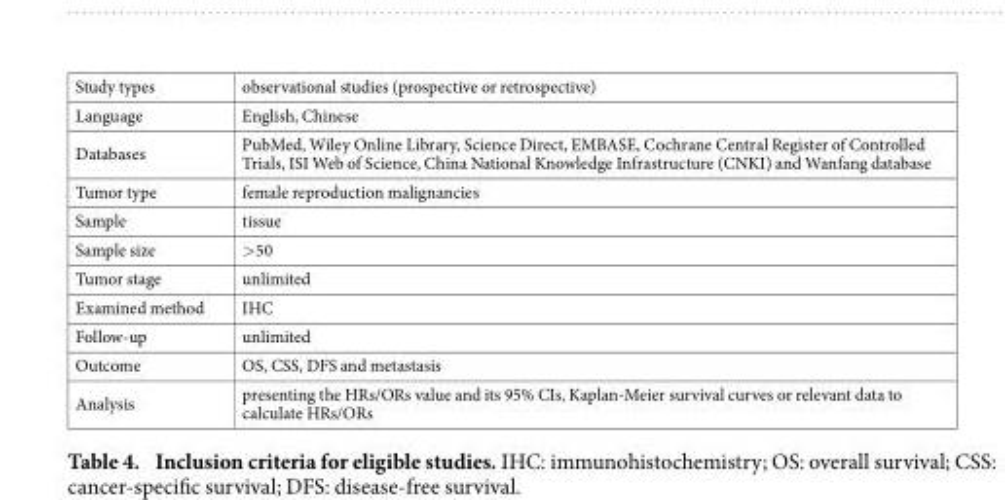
<table><tbody><tr><td>Study types</td><td>observational studies (prospective or retrospective)</td></tr><tr><td>Language</td><td>English, Chinese</td></tr><tr><td>Databases</td><td>PubMed, Wiley Online Library, Science Direct, EMBASE, Cochrane Central Register of Controlled Trials, ISI Web of Science, China National Knowledge Infrastructure (CNKI) and Wanfang database</td></tr><tr><td>Tumor type</td><td>female reproduction malignancies</td></tr><tr><td>Sample</td><td>tissue</td></tr><tr><td>Sample size</td><td>&gt; 50</td></tr><tr><td>Tumor stage</td><td>unlimited</td></tr><tr><td>Examined method</td><td>IHC</td></tr><tr><td>Follow-up</td><td>unlimited</td></tr><tr><td>Outcome</td><td>OS, CSS, DFS and metastasis</td></tr><tr><td>Analysis</td><td>presenting the HRs/ORs value and its 95% CIs, Kaplan-Meier survival curves or relevant data to calculate HRs/ORs</td></tr></tbody></table>